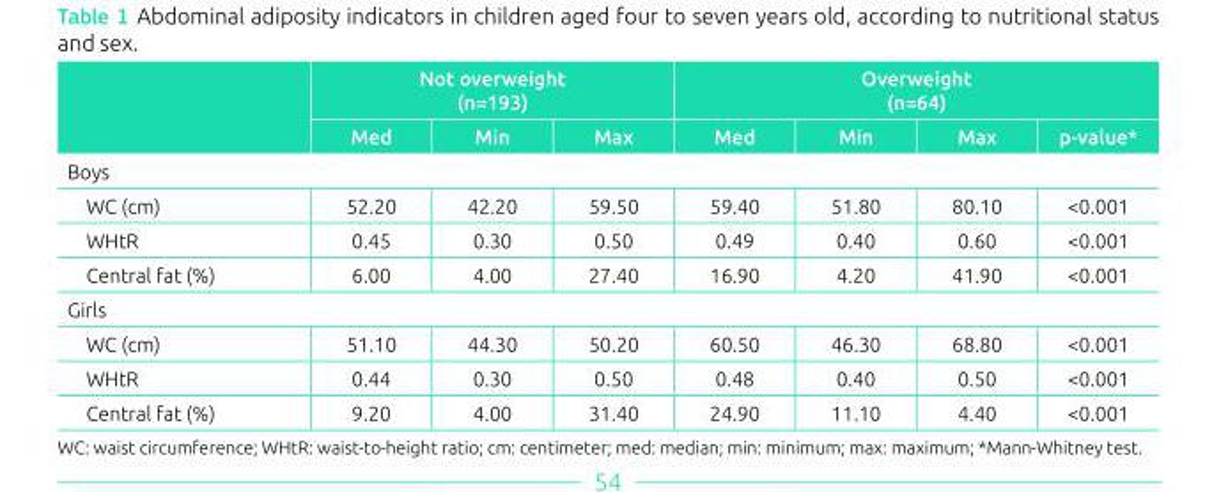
<table><thead><tr><td rowspan="2"></td><td colspan="3">Not overweight (n=193)</td><td colspan="4">Overweight (n=64)</td></tr><tr><td>Med</td><td>Min</td><td>Max</td><td>Med</td><td>Min</td><td>Max</td><td>p-value*</td></tr></thead><tbody><tr><td colspan="8">Boys</td></tr><tr><td>WC (cm)</td><td>52.20</td><td>42.20</td><td>59.50</td><td>59.40</td><td>51.80</td><td>80.10</td><td>&lt;0.001</td></tr><tr><td>WHtR</td><td>0.45</td><td>0.30</td><td>0.50</td><td>0.49</td><td>0.40</td><td>0.60</td><td>&lt;0.001</td></tr><tr><td>Central fat (%)</td><td>6.00</td><td>4.00</td><td>27.40</td><td>16.90</td><td>4.20</td><td>41.90</td><td>&lt;0.001</td></tr><tr><td colspan="8">Girls</td></tr><tr><td>WC (cm)</td><td>51.10</td><td>44.30</td><td>50.20</td><td>60.50</td><td>46.30</td><td>68.80</td><td>&lt;0.001</td></tr><tr><td>WHtR</td><td>0.44</td><td>0.30</td><td>0.50</td><td>0.48</td><td>0.40</td><td>0.50</td><td>&lt;0.001</td></tr><tr><td>Central fat (%)</td><td>9.20</td><td>4.00</td><td>31.40</td><td>24.90</td><td>11.10</td><td>4.40</td><td>&lt;0.001</td></tr></tbody></table>